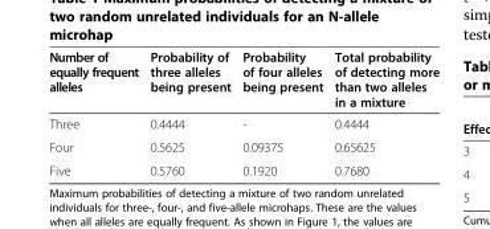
<table><thead><tr><td>Number of equally frequent alleles</td><td>Probability of three alleles being present</td><td>Probability of four alleles being present</td><td>Total probability of detecting more than two alleles in a mixture</td></tr></thead><tbody><tr><td>Three</td><td>0.4444</td><td>-</td><td>0.4444</td></tr><tr><td>Four</td><td>0.5625</td><td>0.09375</td><td>0.65625</td></tr><tr><td>Five</td><td>0.5760</td><td>0.1920</td><td>0.7680</td></tr></tbody></table>